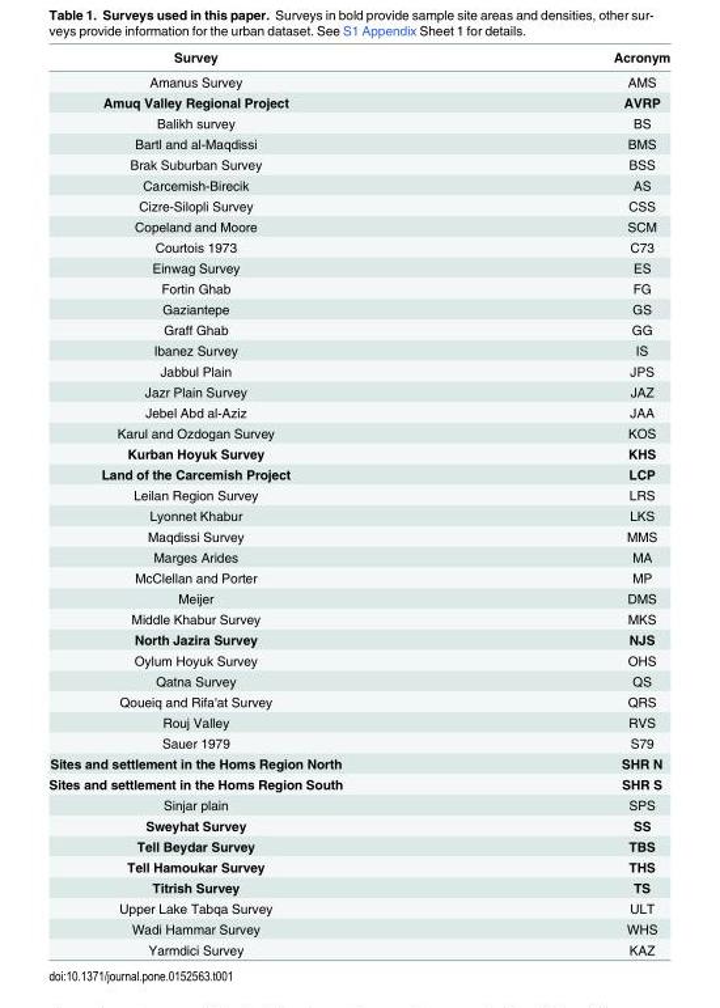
<table><thead><tr><td>Survey</td><td>Acronym</td></tr></thead><tbody><tr><td>Amanus Survey</td><td>AMS</td></tr><tr><td>Amuq Valley Regional Project</td><td>AVRP</td></tr><tr><td>Balikh survey</td><td>BS</td></tr><tr><td>Bartl and al-Maqdissi</td><td>BMS</td></tr><tr><td>Brak Suburban Survey</td><td>BSS</td></tr><tr><td>Carcemish-Birecik</td><td>AS</td></tr><tr><td>Cizre-Silopli Survey</td><td>CSS</td></tr><tr><td>Copeland and Moore</td><td>SCM</td></tr><tr><td>Courtois 1973</td><td>C73</td></tr><tr><td>Einwag Survey</td><td>ES</td></tr><tr><td>Fortin Ghab</td><td>FG</td></tr><tr><td>Gaziantepe</td><td>GS</td></tr><tr><td>Graff Ghab</td><td>GG</td></tr><tr><td>Ibanez Survey</td><td>IS</td></tr><tr><td>Jabbul Plain</td><td>JPS</td></tr><tr><td>Jazr Plain Survey</td><td>JAZ</td></tr><tr><td>Jebel Abd al-Aziz</td><td>JAA</td></tr><tr><td>Karul and Ozdogan Survey</td><td>KOS</td></tr><tr><td>Kurban Hoyuk Survey</td><td>KHS</td></tr><tr><td>Land of the Carcemish Project</td><td>LCP</td></tr><tr><td>Leilan Region Survey</td><td>LRS</td></tr><tr><td>Lyonnet Khabur</td><td>LKS</td></tr><tr><td>Maqdissi Survey</td><td>MMS</td></tr><tr><td>Marges Arides</td><td>MA</td></tr><tr><td>McClellan and Porter</td><td>MP</td></tr><tr><td>Meijer</td><td>DMS</td></tr><tr><td>Middle Khabur Survey</td><td>MKS</td></tr><tr><td>North Jazira Survey</td><td>NJS</td></tr><tr><td>Oylum Hoyuk Survey</td><td>OHS</td></tr><tr><td>Qatna Survey</td><td>QS</td></tr><tr><td>Qoueiq and Rifa&#x27;at Survey</td><td>QRS</td></tr><tr><td>Rouj Valley</td><td>RVS</td></tr><tr><td>Sauer 1979</td><td>S79</td></tr><tr><td>Sites and settlement in the Homs Region North</td><td>SHR N</td></tr><tr><td>Sites and settlement in the Homs Region South</td><td>SHR S</td></tr><tr><td>Sinjar plain</td><td>SPS</td></tr><tr><td>Sweyhat Survey</td><td>SS</td></tr><tr><td>Tell Beydar Survey</td><td>TBS</td></tr><tr><td>Tell Hamoukar Survey</td><td>THS</td></tr><tr><td>Titrish Survey</td><td>TS</td></tr><tr><td>Upper Lake Tabqa Survey</td><td>ULT</td></tr><tr><td>Wadi Hammar Survey</td><td>WHS</td></tr><tr><td>Yarmdici Survey</td><td>KAZ</td></tr></tbody></table>